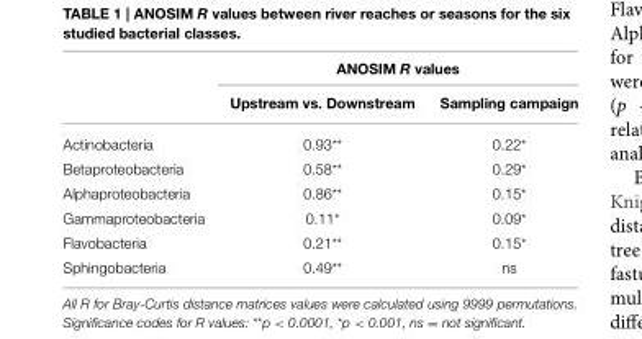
<table><thead><tr><td rowspan="2"></td><td colspan="2">ANOSIM R values</td></tr><tr><td>Upstream vs. Downstream</td><td>Sampling campaign</td></tr></thead><tbody><tr><td>Actinobacteria</td><td>0.93**</td><td>0.22*</td></tr><tr><td>Betaproteobacteria</td><td>0.58**</td><td>0.29*</td></tr><tr><td>Alphaproteobacteria</td><td>0.86**</td><td>0.15*</td></tr><tr><td>Gammaproteobacteria</td><td>0.11*</td><td>0.09*</td></tr><tr><td>Flavobacteria</td><td>0.21**</td><td>0.15*</td></tr><tr><td>Sphingobacteria</td><td>0.49**</td><td>ns</td></tr></tbody></table>